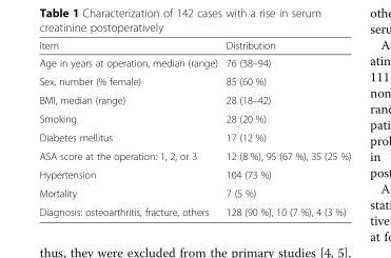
<table><thead><tr><td>Item</td><td>Distribution</td></tr></thead><tbody><tr><td>Age in years at operation, median (range)</td><td>76 (38–94)</td></tr><tr><td>Sex, number (% female)</td><td>85 (60 %)</td></tr><tr><td>BMI, median (range)</td><td>28 (18–42)</td></tr><tr><td>Smoking</td><td>28 (20 %)</td></tr><tr><td>Diabetes mellitus</td><td>17 (12 %)</td></tr><tr><td>ASA score at the operation: 1, 2, or 3</td><td>12 (8 %), 95 (67 %), 35 (25 %)</td></tr><tr><td>Hypertension</td><td>104 (73 %)</td></tr><tr><td>Mortality</td><td>7 (5 %)</td></tr><tr><td>Diagnosis: osteoarthritis, fracture, others</td><td>128 (90 %), 10 (7 %), 4 (3 %)</td></tr></tbody></table>